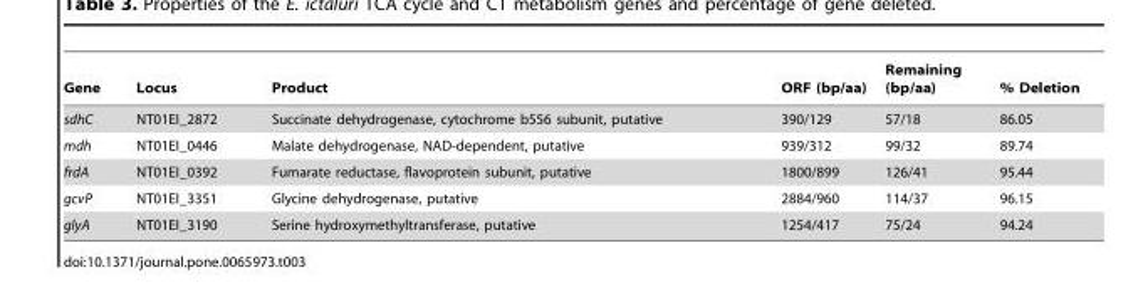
<table><thead><tr><td>Gene</td><td>Locus</td><td>Product</td><td>ORF (bp/aa)</td><td>Remaining (bp/aa)</td><td>% Deletion</td></tr></thead><tbody><tr><td>sdhC</td><td>NT01EI_2872</td><td>Succinate dehydrogenase, cytochrome b556 subunit, putative</td><td>390/129</td><td>57/18</td><td>86.05</td></tr><tr><td>mdh</td><td>NT01EI_0446</td><td>Malate dehydrogenase, NAD-dependent, putative</td><td>939/312</td><td>99/32</td><td>89.74</td></tr><tr><td>frdA</td><td>NT01EI_0392</td><td>Fumarate reductase, flavoprotein subunit, putative</td><td>1800/899</td><td>126/41</td><td>95.44</td></tr><tr><td>gcvP</td><td>NT01EI_3351</td><td>Glycine dehydrogenase, putative</td><td>2884/960</td><td>114/37</td><td>96.15</td></tr><tr><td>glyA</td><td>NT01EI_3190</td><td>Serine hydroxymethyltransferase, putative</td><td>1254/417</td><td>75/24</td><td>94.24</td></tr></tbody></table>